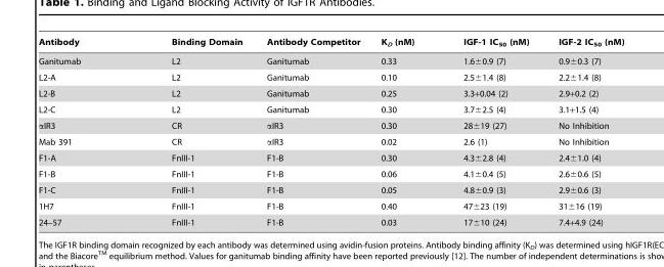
<table><thead><tr><td>Antibody</td><td>Binding Domain</td><td>Antibody Competitor</td><td>K<sub>D</sub> (nM)</td><td>IGF-1 IC<sub>50</sub> (nM)</td><td>IGF-2 IC<sub>50</sub> (nM)</td></tr></thead><tbody><tr><td>Ganitumab</td><td>L2</td><td>Ganitumab</td><td>0.33</td><td>1.6±0.9 (7)</td><td>0.9±0.3 (7)</td></tr><tr><td>L2-A</td><td>L2</td><td>Ganitumab</td><td>0.10</td><td>2.5±1.4 (8)</td><td>2.2±1.4 (8)</td></tr><tr><td>L2-B</td><td>L2</td><td>Ganitumab</td><td>0.25</td><td>3.3+0.04 (2)</td><td>2.9+0.2 (2)</td></tr><tr><td>L2-C</td><td>L2</td><td>Ganitumab</td><td>0.30</td><td>3.7±2.5 (4)</td><td>3.1+1.5 (4)</td></tr><tr><td>αIR3</td><td>CR</td><td>αIR3</td><td>0.30</td><td>28±19 (27)</td><td>No Inhibition</td></tr><tr><td>Mab 391</td><td>CR</td><td>αIR3</td><td>0.02</td><td>2.6 (1)</td><td>No Inhibition</td></tr><tr><td>F1-A</td><td>FnIII-1</td><td>F1-B</td><td>0.30</td><td>4.3±2.8 (4)</td><td>2.4±1.0 (4)</td></tr><tr><td>F1-B</td><td>FnIII-1</td><td>F1-B</td><td>0.06</td><td>4.1±0.4 (5)</td><td>2.6±0.6 (5)</td></tr><tr><td>F1-C</td><td>FnIII-1</td><td>F1-B</td><td>0.05</td><td>4.8±0.9 (3)</td><td>2.9±0.6 (3)</td></tr><tr><td>1H7</td><td>FnIII-1</td><td>F1-B</td><td>0.40</td><td>47±23 (19)</td><td>31±16 (19)</td></tr><tr><td>24–57</td><td>FnIII-1</td><td>F1-B</td><td>0.03</td><td>17±10 (24)</td><td>7.4+4.9 (24)</td></tr></tbody></table>